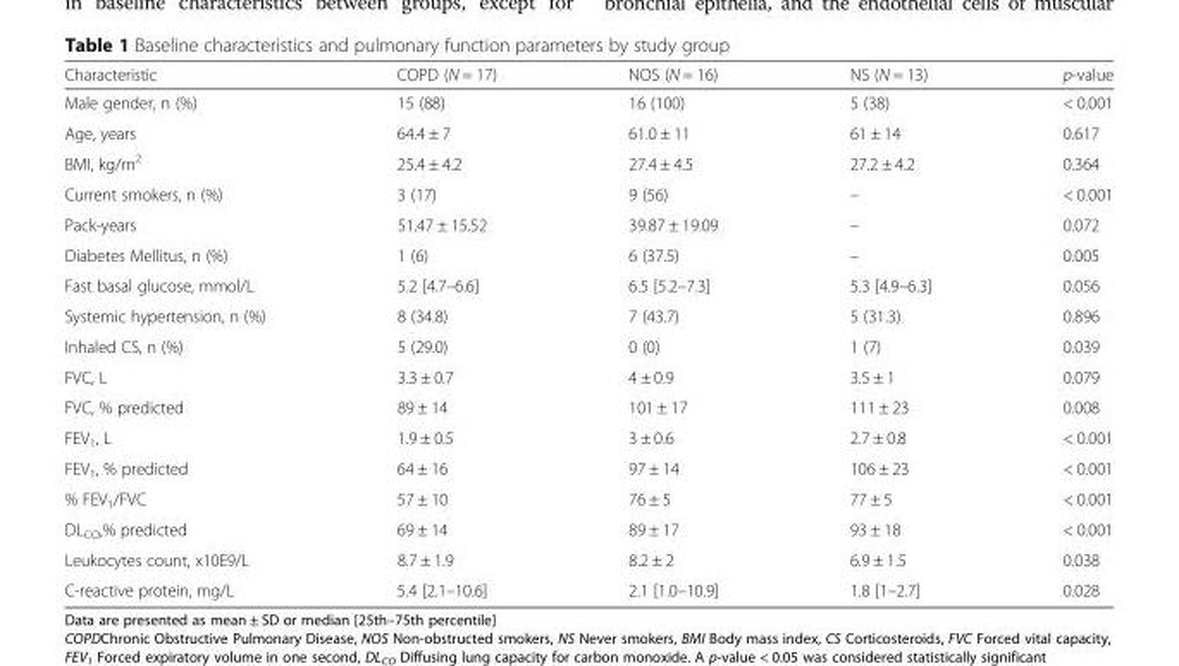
<table><thead><tr><td>Characteristic</td><td>COPD (N = 17)</td><td>NOS (N = 16)</td><td>NS (N = 13)</td><td>p-value</td></tr></thead><tbody><tr><td>Male gender, n (%)</td><td>15 (88)</td><td>16 (100)</td><td>5 (38)</td><td>&lt; 0.001</td></tr><tr><td>Age, years</td><td>64.4 ± 7</td><td>61.0 ± 11</td><td>61 ± 14</td><td>0.617</td></tr><tr><td>BMI, kg/m<sup>2</sup></td><td>25.4 ± 4.2</td><td>27.4 ± 4.5</td><td>27.2 ± 4.2</td><td>0.364</td></tr><tr><td>Current smokers, n (%)</td><td>3 (17)</td><td>9 (56)</td><td>–</td><td>&lt; 0.001</td></tr><tr><td>Pack-years</td><td>51.47 ± 15.52</td><td>39.87 ± 19.09</td><td>–</td><td>0.072</td></tr><tr><td>Diabetes Mellitus, n (%)</td><td>1 (6)</td><td>6 (37.5)</td><td>–</td><td>0.005</td></tr><tr><td>Fast basal glucose, mmol/L</td><td>5.2 [4.7–6.6]</td><td>6.5 [5.2–7.3]</td><td>5.3 [4.9–6.3]</td><td>0.056</td></tr><tr><td>Systemic hypertension, n (%)</td><td>8 (34.8)</td><td>7 (43.7)</td><td>5 (31.3)</td><td>0.896</td></tr><tr><td>Inhaled CS, n (%)</td><td>5 (29.0)</td><td>0 (0)</td><td>1 (7)</td><td>0.039</td></tr><tr><td>FVC, L</td><td>3.3 ± 0.7</td><td>4 ± 0.9</td><td>3.5 ± 1</td><td>0.079</td></tr><tr><td>FVC, % predicted</td><td>89 ± 14</td><td>101 ± 17</td><td>111 ± 23</td><td>0.008</td></tr><tr><td>FEV<sub>1</sub>, L</td><td>1.9 ± 0.5</td><td>3 ± 0.6</td><td>2.7 ± 0.8</td><td>&lt; 0.001</td></tr><tr><td>FEV<sub>1</sub>, % predicted</td><td>64 ± 16</td><td>97 ± 14</td><td>106 ± 23</td><td>&lt; 0.001</td></tr><tr><td>% FEV<sub>1</sub>/FVC</td><td>57 ± 10</td><td>76 ± 5</td><td>77 ± 5</td><td>&lt; 0.001</td></tr><tr><td>DL<sub>CO</sub>,% predicted</td><td>69 ± 14</td><td>89 ± 17</td><td>93 ± 18</td><td>&lt; 0.001</td></tr><tr><td>Leukocytes count, x10E9/L</td><td>8.7 ± 1.9</td><td>8.2 ± 2</td><td>6.9 ± 1.5</td><td>0.038</td></tr><tr><td>C-reactive protein, mg/L</td><td>5.4 [2.1–10.6]</td><td>2.1 [1.0–10.9]</td><td>1.8 [1–2.7]</td><td>0.028</td></tr></tbody></table>